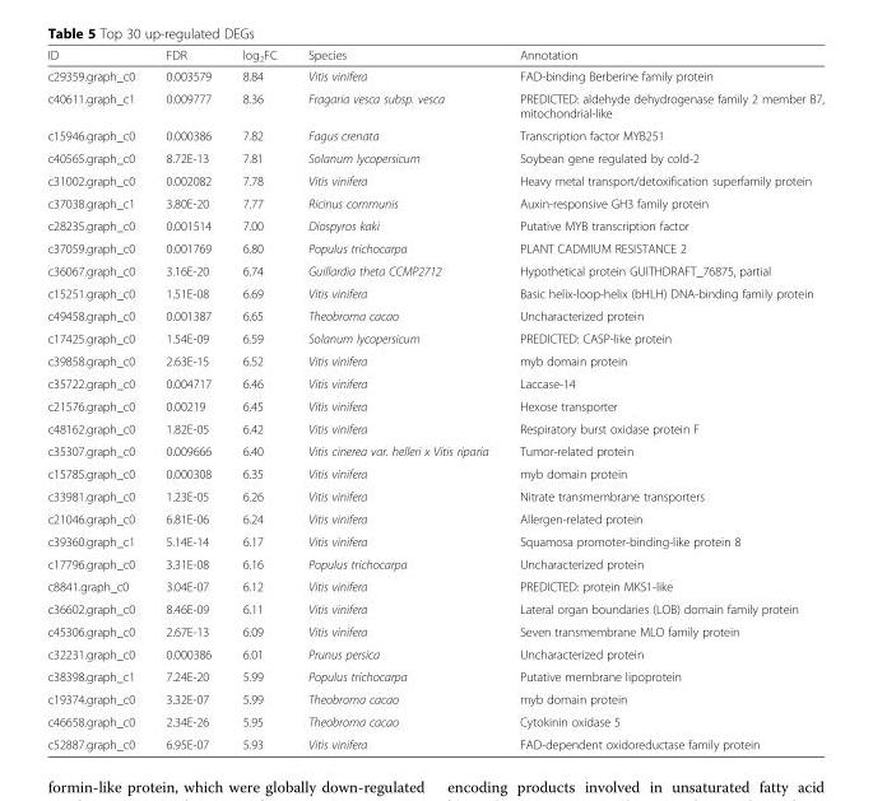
<table><thead><tr><td>ID</td><td>FDR</td><td>log<sub>2</sub>FC</td><td>Species</td><td>Annotation</td></tr></thead><tbody><tr><td>c29359.graph_c0</td><td>0.003579</td><td>8.84</td><td>Vitis vinifera</td><td>FAD-binding Berberine family protein</td></tr><tr><td>c40611.graph_c1</td><td>0.009777</td><td>8.36</td><td>Fragaria vesca subsp. vesca</td><td>PREDICTED: aldehyde dehydrogenase family 2 member B7, mitochondrial-like</td></tr><tr><td>c15946.graph_c0</td><td>0.000386</td><td>7.82</td><td>Fagus crenata</td><td>Transcription factor MYB251</td></tr><tr><td>c40565.graph_c0</td><td>8.72E-13</td><td>7.81</td><td>Solanum lycopersicum</td><td>Soybean gene regulated by cold-2</td></tr><tr><td>c31002.graph_c0</td><td>0.002082</td><td>7.78</td><td>Vitis vinifera</td><td>Heavy metal transport/detoxification superfamily protein</td></tr><tr><td>c37038.graph_c1</td><td>3.80E-20</td><td>7.77</td><td>Ricinus communis</td><td>Auxin-responsive GH3 family protein</td></tr><tr><td>c28235.graph_c0</td><td>0.001514</td><td>7.00</td><td>Diospyros kaki</td><td>Putative MYB transcription factor</td></tr><tr><td>c37059.graph_c0</td><td>0.001769</td><td>6.80</td><td>Populus trichocarpa</td><td>PLANT CADMIUM RESISTANCE 2</td></tr><tr><td>c36067.graph_c0</td><td>3.16E-20</td><td>6.74</td><td>Guillardia theta CCMP2712</td><td>Hypothetical protein GUITHDRAFT_76875, partial</td></tr><tr><td>c15251.graph_c0</td><td>1.51E-08</td><td>6.69</td><td>Vitis vinifera</td><td>Basic helix-loop-helix (bHLH) DNA-binding family protein</td></tr><tr><td>c49458.graph_c0</td><td>0.001387</td><td>6.65</td><td>Theobroma cacao</td><td>Uncharacterized protein</td></tr><tr><td>c17425.graph_c0</td><td>1.54E-09</td><td>6.59</td><td>Solanum lycopersicum</td><td>PREDICTED: CASP-like protein</td></tr><tr><td>c39858.graph_c0</td><td>2.63E-15</td><td>6.52</td><td>Vitis vinifera</td><td>myb domain protein</td></tr><tr><td>c35722.graph_c0</td><td>0.004717</td><td>6.46</td><td>Vitis vinifera</td><td>Laccase-14</td></tr><tr><td>c21576.graph_c0</td><td>0.00219</td><td>6.45</td><td>Vitis vinifera</td><td>Hexose transporter</td></tr><tr><td>c48162.graph_c0</td><td>1.82E-05</td><td>6.42</td><td>Vitis vinifera</td><td>Respiratory burst oxidase protein F</td></tr><tr><td>c35307.graph_c0</td><td>0.009666</td><td>6.40</td><td>Vitis cinerea var. helleri x Vitis riparia</td><td>Tumor-related protein</td></tr><tr><td>c15785.graph_c0</td><td>0.000308</td><td>6.35</td><td>Vitis vinifera</td><td>myb domain protein</td></tr><tr><td>c33981.graph_c0</td><td>1.23E-05</td><td>6.26</td><td>Vitis vinifera</td><td>Nitrate transmembrane transporters</td></tr><tr><td>c21046.graph_c0</td><td>6.81E-06</td><td>6.24</td><td>Vitis vinifera</td><td>Allergen-related protein</td></tr><tr><td>c39360.graph_c1</td><td>5.14E-14</td><td>6.17</td><td>Vitis vinifera</td><td>Squamosa promoter-binding-like protein 8</td></tr><tr><td>c17796.graph_c0</td><td>3.31E-08</td><td>6.16</td><td>Populus trichocarpa</td><td>Uncharacterized protein</td></tr><tr><td>c8841.graph_c0</td><td>3.04E-07</td><td>6.12</td><td>Vitis vinifera</td><td>PREDICTED: protein MKS1-like</td></tr><tr><td>c36602.graph_c0</td><td>8.46E-09</td><td>6.11</td><td>Vitis vinifera</td><td>Lateral organ boundaries (LOB) domain family protein</td></tr><tr><td>c45306.graph_c0</td><td>2.67E-13</td><td>6.09</td><td>Vitis vinifera</td><td>Seven transmembrane MLO family protein</td></tr><tr><td>c32231.graph_c0</td><td>0.000386</td><td>6.01</td><td>Prunus persica</td><td>Uncharacterized protein</td></tr><tr><td>c38398.graph_c1</td><td>7.24E-20</td><td>5.99</td><td>Populus trichocarpa</td><td>Putative membrane lipoprotein</td></tr><tr><td>c19374.graph_c0</td><td>3.32E-07</td><td>5.99</td><td>Theobroma cacao</td><td>myb domain protein</td></tr><tr><td>c46658.graph_c0</td><td>2.34E-26</td><td>5.95</td><td>Theobroma cacao</td><td>Cytokinin oxidase 5</td></tr><tr><td>c52887.graph_c0</td><td>6.95E-07</td><td>5.93</td><td>Vitis vinifera</td><td>FAD-dependent oxidoreductase family protein</td></tr></tbody></table>